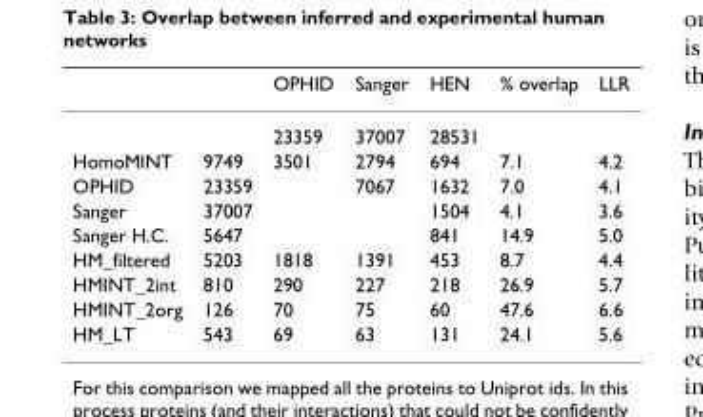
<table><thead><tr><td></td><td></td><td>OPHID</td><td>Sanger</td><td>HEN</td><td>% overlap</td><td>LLR</td></tr></thead><tbody><tr><td></td><td></td><td>23359</td><td>37007</td><td>28531</td><td></td><td></td></tr><tr><td>HomoMINT</td><td>9749</td><td>3501</td><td>2794</td><td>694</td><td>7.1</td><td>4.2</td></tr><tr><td>OPHID</td><td>23359</td><td></td><td>7067</td><td>1632</td><td>7.0</td><td>4.1</td></tr><tr><td>Sanger</td><td>37007</td><td></td><td></td><td>1504</td><td>4.1</td><td>3.6</td></tr><tr><td>Sanger H.C.</td><td>5647</td><td></td><td></td><td>841</td><td>14.9</td><td>5.0</td></tr><tr><td>HM_filtered</td><td>5203</td><td>1818</td><td>1391</td><td>453</td><td>8.7</td><td>4.4</td></tr><tr><td>HMINT_2int</td><td>810</td><td>290</td><td>227</td><td>218</td><td>26.9</td><td>5.7</td></tr><tr><td>HMINT_2org</td><td>126</td><td>70</td><td>75</td><td>60</td><td>47.6</td><td>6.6</td></tr><tr><td>HM_LT</td><td>543</td><td>69</td><td>63</td><td>131</td><td>24.1</td><td>5.6</td></tr></tbody></table>